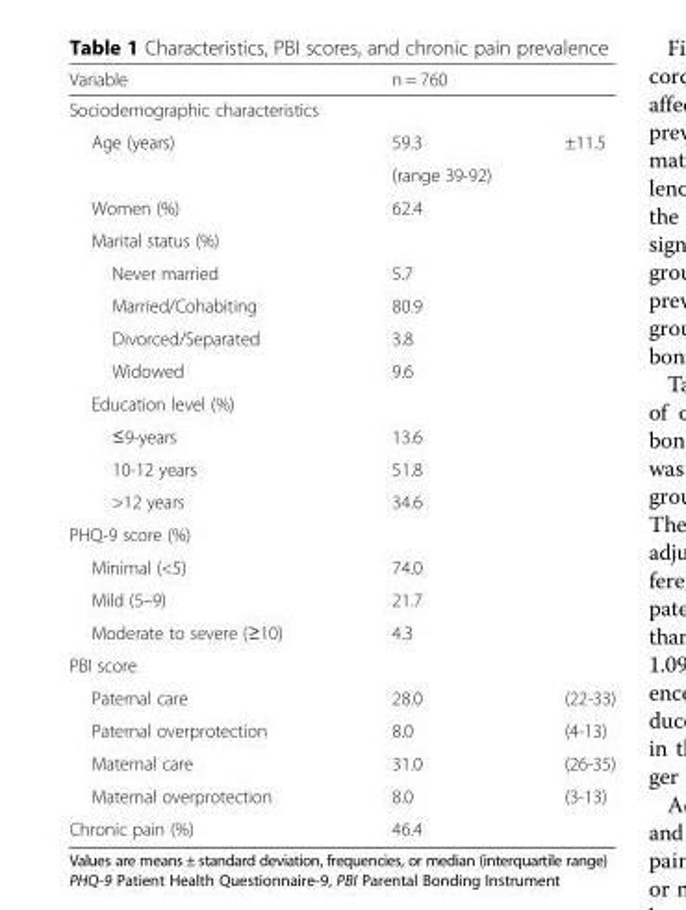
<table><thead><tr><td>Variable</td><td>n = 760</td><td></td></tr></thead><tbody><tr><td colspan="3">Sociodemographic characteristics</td></tr><tr><td rowspan="2">Age (years)</td><td>59.3</td><td>±11.5</td></tr><tr><td>(range 39-92)</td><td></td></tr><tr><td>Women (%)</td><td>62.4</td><td></td></tr><tr><td colspan="3">Marital status (%)</td></tr><tr><td>Never married</td><td>5.7</td><td></td></tr><tr><td>Married/Cohabiting</td><td>80.9</td><td></td></tr><tr><td>Divorced/Separated</td><td>3.8</td><td></td></tr><tr><td>Widowed</td><td>9.6</td><td></td></tr><tr><td colspan="3">Education level (%)</td></tr><tr><td>≤9-years</td><td>13.6</td><td></td></tr><tr><td>10-12 years</td><td>51.8</td><td></td></tr><tr><td>&gt;12 years</td><td>34.6</td><td></td></tr><tr><td colspan="3">PHQ-9 score (%)</td></tr><tr><td>Minimal (&lt;5)</td><td>74.0</td><td></td></tr><tr><td>Mild (5–9)</td><td>21.7</td><td></td></tr><tr><td>Moderate to severe (≥10)</td><td>4.3</td><td></td></tr><tr><td colspan="3">PBI score</td></tr><tr><td>Paternal care</td><td>28.0</td><td>(22-33)</td></tr><tr><td>Paternal overprotection</td><td>8.0</td><td>(4-13)</td></tr><tr><td>Maternal care</td><td>31.0</td><td>(26-35)</td></tr><tr><td>Maternal overprotection</td><td>8.0</td><td>(3-13)</td></tr><tr><td>Chronic pain (%)</td><td>46.4</td><td></td></tr></tbody></table>